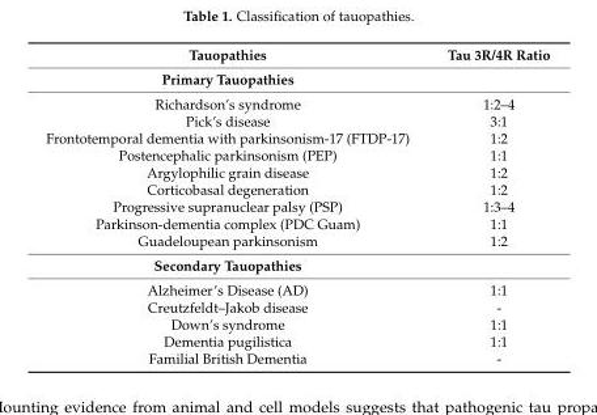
<table><thead><tr><td>Tauopathies</td><td>Tau 3R/4R Ratio</td></tr></thead><tbody><tr><td colspan="2">Primary Tauopathies</td></tr><tr><td>Richardson’s syndrome</td><td>1:2–4</td></tr><tr><td>Pick’s disease</td><td>3:1</td></tr><tr><td>Frontotemporal dementia with parkinsonism-17 (FTDP-17)</td><td>1:2</td></tr><tr><td>Postencephalic parkinsonism (PEP)</td><td>1:1</td></tr><tr><td>Argylophilic grain disease</td><td>1:2</td></tr><tr><td>Corticobasal degeneration</td><td>1:2</td></tr><tr><td>Progressive supranuclear palsy (PSP)</td><td>1:3–4</td></tr><tr><td>Parkinson-dementia complex (PDC Guam)</td><td>1:1</td></tr><tr><td>Guadeloupean parkinsonism</td><td>1:2</td></tr><tr><td colspan="2">Secondary Tauopathies</td></tr><tr><td>Alzheimer’s Disease (AD)</td><td>1:1</td></tr><tr><td>Creutzfeldt–Jakob disease</td><td>-</td></tr><tr><td>Down’s syndrome</td><td>1:1</td></tr><tr><td>Dementia pugilistica</td><td>1:1</td></tr><tr><td>Familial British Dementia</td><td>-</td></tr></tbody></table>